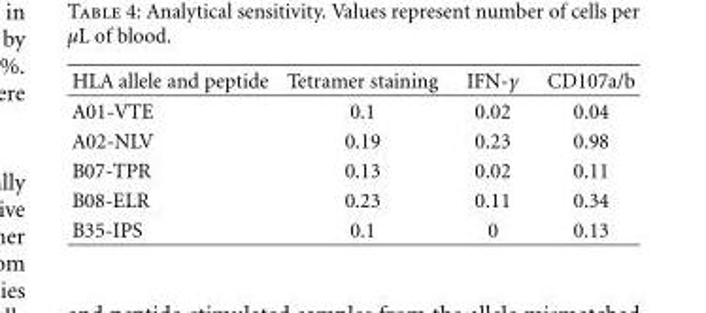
<table><thead><tr><td>HLA allele and peptide</td><td>Tetramer staining</td><td>IFN-γ</td><td>CD107a/b</td></tr></thead><tbody><tr><td>A01-VTE</td><td>0.1</td><td>0.02</td><td>0.04</td></tr><tr><td>A02-NLV</td><td>0.19</td><td>0.23</td><td>0.98</td></tr><tr><td>B07-TPR</td><td>0.13</td><td>0.02</td><td>0.11</td></tr><tr><td>B08-ELR</td><td>0.23</td><td>0.11</td><td>0.34</td></tr><tr><td>B35-IPS</td><td>0.1</td><td>0</td><td>0.13</td></tr></tbody></table>